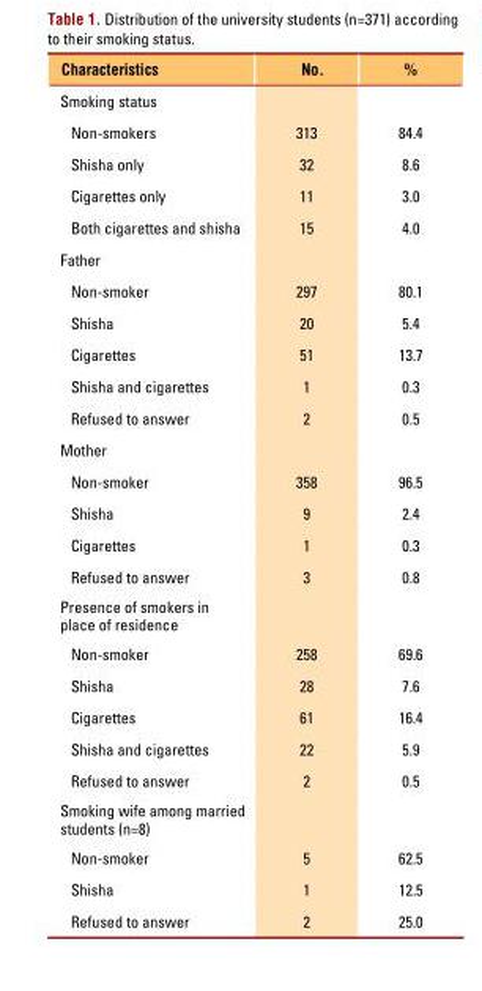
<table><thead><tr><td>Characteristics</td><td>No.</td><td>%</td></tr></thead><tbody><tr><td colspan="3">Smoking status</td></tr><tr><td>Non-smokers</td><td>313</td><td>84.4</td></tr><tr><td>Shisha only</td><td>32</td><td>8.6</td></tr><tr><td>Cigarettes only</td><td>11</td><td>3.0</td></tr><tr><td>Both cigarettes and shisha</td><td>15</td><td>4.0</td></tr><tr><td colspan="3">Father</td></tr><tr><td>Non-smoker</td><td>297</td><td>80.1</td></tr><tr><td>Shisha</td><td>20</td><td>5.4</td></tr><tr><td>Cigarettes</td><td>51</td><td>13.7</td></tr><tr><td>Shisha and cigarettes</td><td>1</td><td>0.3</td></tr><tr><td>Refused to answer</td><td>2</td><td>0.5</td></tr><tr><td colspan="3">Mother</td></tr><tr><td>Non-smoker</td><td>358</td><td>96.5</td></tr><tr><td>Shisha</td><td>9</td><td>2.4</td></tr><tr><td>Cigarettes</td><td>1</td><td>0.3</td></tr><tr><td>Refused to answer</td><td>3</td><td>0.8</td></tr><tr><td colspan="3">Presence of smokers in place of residence</td></tr><tr><td>Non-smoker</td><td>258</td><td>69.6</td></tr><tr><td>Shisha</td><td>28</td><td>7.6</td></tr><tr><td>Cigarettes</td><td>61</td><td>16.4</td></tr><tr><td>Shisha and cigarettes</td><td>22</td><td>5.9</td></tr><tr><td>Refused to answer</td><td>2</td><td>0.5</td></tr><tr><td colspan="3">Smoking wife among married students (n=8)</td></tr><tr><td>Non-smoker</td><td>5</td><td>62.5</td></tr><tr><td>Shisha</td><td>1</td><td>12.5</td></tr><tr><td>Refused to answer</td><td>2</td><td>25.0</td></tr></tbody></table>